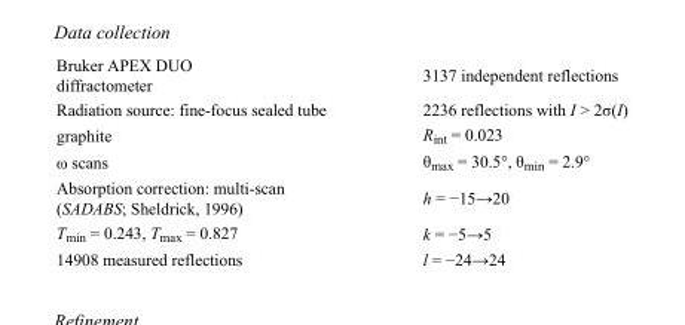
<table><tbody><tr><td>Bruker APEX DUO diffractometer</td><td>3137 independent reflections</td></tr><tr><td>Radiation source: fine-focus sealed tube</td><td>2236 reflections with I &gt; 2σ(I)</td></tr><tr><td>graphite</td><td>R<sub>int</sub> = 0.023</td></tr><tr><td>ω scans</td><td>θ<sub>max</sub> = 30.5°, θ<sub>min</sub> = 2.9°</td></tr><tr><td>Absorption correction: multi-scan (SADABS; Sheldrick, 1996)</td><td>h = −15→20</td></tr><tr><td>T<sub>min</sub> = 0.243, T<sub>max</sub> = 0.827</td><td>k = −5→5</td></tr><tr><td>14908 measured reflections</td><td>l = −24→24</td></tr></tbody></table>